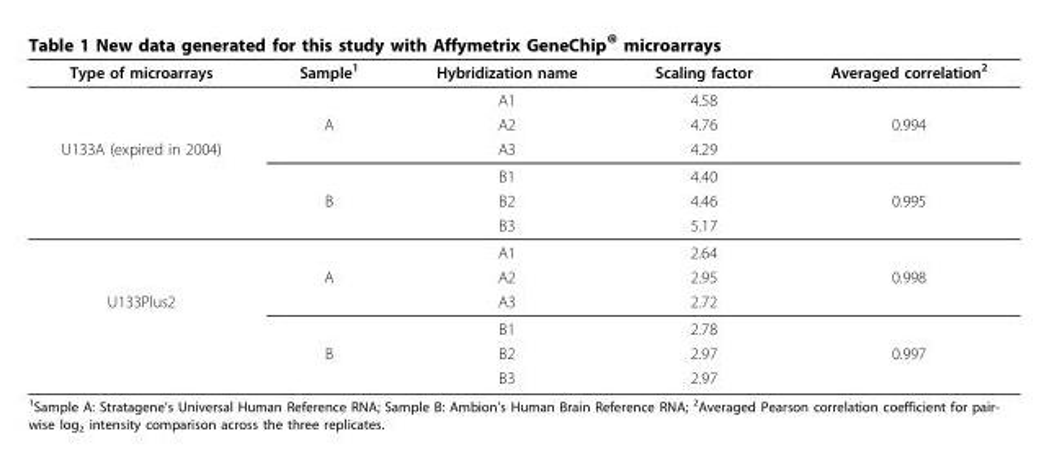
<table><thead><tr><td>Type of microarrays</td><td>Sample<sup>1</sup></td><td>Hybridization name</td><td>Scaling factor</td><td>Averaged correlation<sup>2</sup></td></tr></thead><tbody><tr><td></td><td></td><td>A1</td><td>4.58</td><td></td></tr><tr><td></td><td>A</td><td>A2</td><td>4.76</td><td>0.994</td></tr><tr><td rowspan="6">U133A (expired in 2004)</td><td></td><td>A3</td><td>4.29</td><td></td></tr><tr><td></td><td>B1</td><td>4.40</td><td></td></tr><tr><td>B</td><td>B2</td><td>4.46</td><td>0.995</td></tr><tr><td></td><td>B3</td><td>5.17</td><td></td></tr><tr><td></td><td>A1</td><td>2.64</td><td></td></tr><tr><td>A</td><td>A2</td><td>2.95</td><td>0.998</td></tr><tr><td rowspan="4">U133Plus2</td><td></td><td>A3</td><td>2.72</td><td></td></tr><tr><td></td><td>B1</td><td>2.78</td><td></td></tr><tr><td>B</td><td>B2</td><td>2.97</td><td>0.997</td></tr><tr><td></td><td>B3</td><td>2.97</td><td></td></tr></tbody></table>